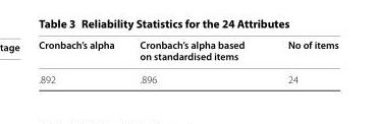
<table><thead><tr><td>Cronbach’s alpha</td><td>Cronbach’s alpha based on standardised items</td><td>No of items</td></tr></thead><tbody><tr><td>.892</td><td>.896</td><td>24</td></tr></tbody></table>